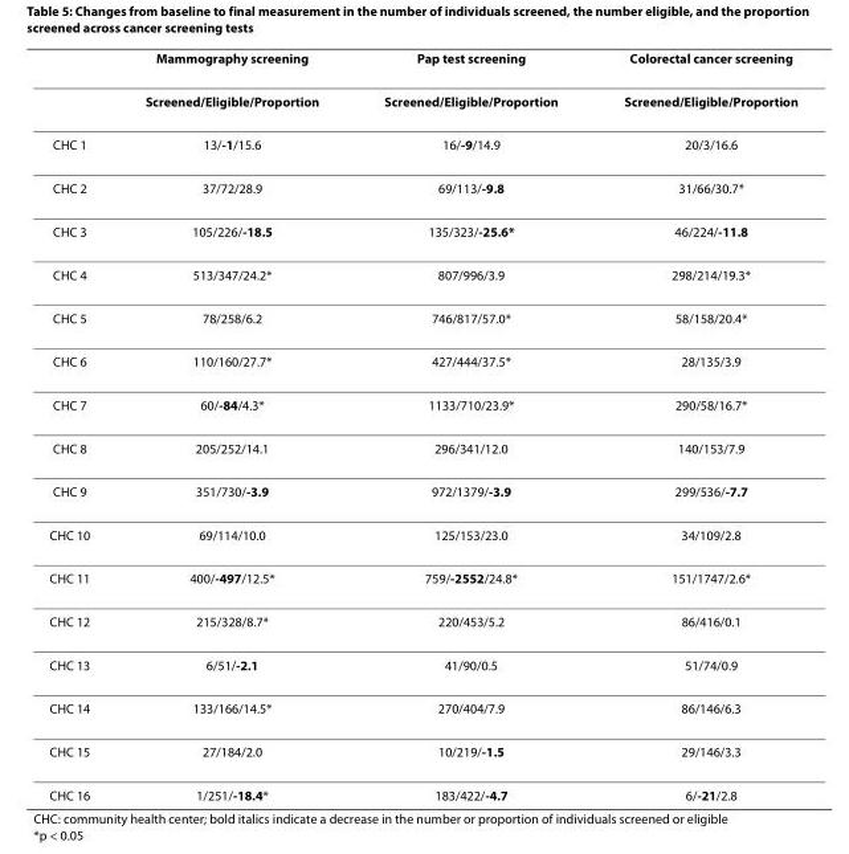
<table><thead><tr><td></td><td>Mammography screening</td><td>Pap test screening</td><td>Colorectal cancer screening</td></tr></thead><tbody><tr><td></td><td>Screened/Eligible/Proportion</td><td>Screened/Eligible/Proportion</td><td>Screened/Eligible/Proportion</td></tr><tr><td>CHC 1</td><td>13/-1/15.6</td><td>16/-9/14.9</td><td>20/3/16.6</td></tr><tr><td>CHC 2</td><td>37/72/28.9</td><td>69/113/-9.8</td><td>31/66/30.7*</td></tr><tr><td>CHC 3</td><td>105/226/-18.5</td><td>135/323/-25.6*</td><td>46/224/-11.8</td></tr><tr><td>CHC 4</td><td>513/347/24.2*</td><td>807/996/3.9</td><td>298/214/19.3*</td></tr><tr><td>CHC 5</td><td>78/258/6.2</td><td>746/817/57.0*</td><td>58/158/20.4*</td></tr><tr><td>CHC 6</td><td>110/160/27.7*</td><td>427/444/37.5*</td><td>28/135/3.9</td></tr><tr><td>CHC 7</td><td>60/-84/4.3*</td><td>1133/710/23.9*</td><td>290/58/16.7*</td></tr><tr><td>CHC 8</td><td>205/252/14.1</td><td>296/341/12.0</td><td>140/153/7.9</td></tr><tr><td>CHC 9</td><td>351/730/-3.9</td><td>972/1379/-3.9</td><td>299/536/-7.7</td></tr><tr><td>CHC 10</td><td>69/114/10.0</td><td>125/153/23.0</td><td>34/109/2.8</td></tr><tr><td>CHC 11</td><td>400/-497/12.5*</td><td>759/-2552/24.8*</td><td>151/1747/2.6*</td></tr><tr><td>CHC 12</td><td>215/328/8.7*</td><td>220/453/5.2</td><td>86/416/0.1</td></tr><tr><td>CHC 13</td><td>6/51/-2.1</td><td>41/90/0.5</td><td>51/74/0.9</td></tr><tr><td>CHC 14</td><td>133/166/14.5*</td><td>270/404/7.9</td><td>86/146/6.3</td></tr><tr><td>CHC 15</td><td>27/184/2.0</td><td>10/219/-1.5</td><td>29/146/3.3</td></tr><tr><td>CHC 16</td><td>1/251/-18.4*</td><td>183/422/-4.7</td><td>6/-21/2.8</td></tr></tbody></table>